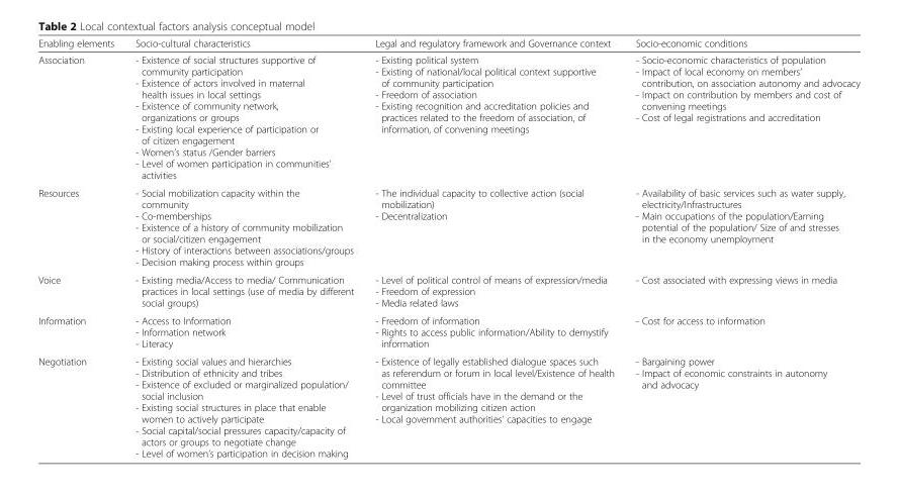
<table><thead><tr><td>Enabling elements</td><td>Socio-cultural characteristics</td><td>Legal and regulatory framework and Governance context</td><td>Socio-economic conditions</td></tr></thead><tbody><tr><td>Association</td><td>- Existence of social structures supportive of community participation - Existence of actors involved in maternal health issues in local settings - Existence of community network, organizations or groups - Existing local experience of participation or of citizen engagement - Women’s status /Gender barriers - Level of women participation in communities’ activities</td><td>- Existing political system - Existing of national/local political context supportive of community participation - Freedom of association - Existing recognition and accreditation policies and practices related to the freedom of association, of information, of convening meetings</td><td>- Socio-economic characteristics of population - Impact of local economy on members’ contribution, on association autonomy and advocacy - Impact on contribution by members and cost of convening meetings - Cost of legal registrations and accreditation</td></tr><tr><td>Resources</td><td>- Social mobilization capacity within the community - Co-memberships - Existence of a history of community mobilization or social/citizen engagement - History of interactions between associations/groups - Decision making process within groups</td><td>- The individual capacity to collective action (social mobilization) - Decentralization</td><td>- Availability of basic services such as water supply, electricity/Infrastructures - Main occupations of the population/Earning potential of the population/ Size of and stresses in the economy unemployment</td></tr><tr><td>Voice</td><td>- Existing media/Access to media/ Communication practices in local settings (use of media by different social groups)</td><td>- Level of political control of means of expression/media - Freedom of expression - Media related laws</td><td>- Cost associated with expressing views in media</td></tr><tr><td>Information</td><td>- Access to Information - Information network - Literacy</td><td>- Freedom of information - Rights to access public information/Ability to demystify information</td><td>- Cost for access to information</td></tr><tr><td>Negotiation</td><td>- Existing social values and hierarchies - Distribution of ethnicity and tribes - Existence of excluded or marginalized population/ social inclusion - Existing social structures in place that enable women to actively participate - Social capital/social pressures capacity/capacity of actors or groups to negotiate change - Level of women’s participation in decision making</td><td>- Existence of legally established dialogue spaces such as referendum or forum in local level/Existence of health committee - Level of trust officials have in the demand or the organization mobilizing citizen action - Local government authorities’ capacities to engage</td><td>- Bargaining power - Impact of economic constraints in autonomy and advocacy</td></tr></tbody></table>